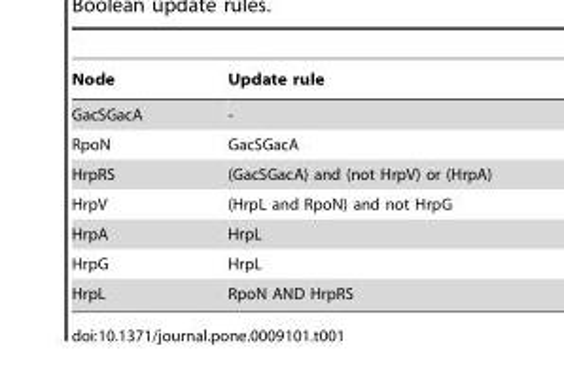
<table><thead><tr><td>Node</td><td>Update rule</td></tr></thead><tbody><tr><td>GacSGacA</td><td>-</td></tr><tr><td>RpoN</td><td>GacSGacA</td></tr><tr><td>HrpRS</td><td>(GacSGacA) and (not HrpV) or (HrpA)</td></tr><tr><td>HrpV</td><td>(HrpL and RpoN) and not HrpG</td></tr><tr><td>HrpA</td><td>HrpL</td></tr><tr><td>HrpG</td><td>HrpL</td></tr><tr><td>HrpL</td><td>RpoN AND HrpRS</td></tr></tbody></table>